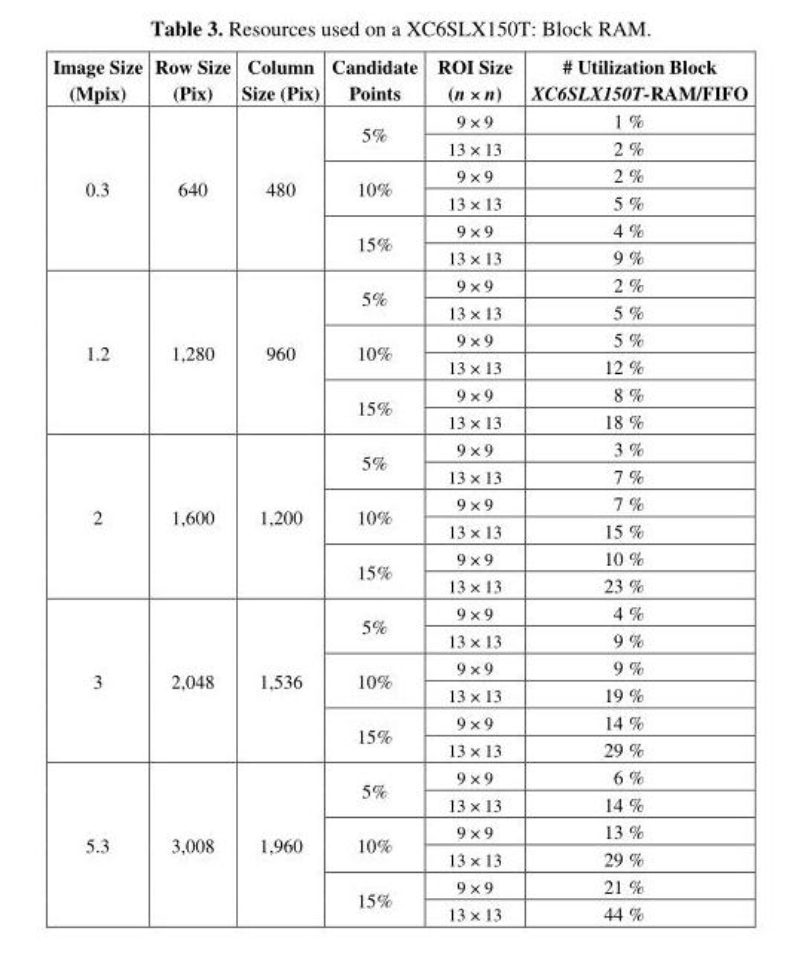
<table><thead><tr><td>Image Size (Mpix)</td><td>Row Size (Pix)</td><td>Column Size (Pix)</td><td>Candidate Points</td><td>ROI Size (n × n)</td><td># Utilization Block XC6SLX150T-RAM/FIFO</td></tr></thead><tbody><tr><td rowspan="6">0.3</td><td rowspan="6">640</td><td rowspan="6">480</td><td rowspan="2">5%</td><td>9 × 9</td><td>1 %</td></tr><tr><td>13 × 13</td><td>2 %</td></tr><tr><td rowspan="2">10%</td><td>9 × 9</td><td>2 %</td></tr><tr><td>13 × 13</td><td>5 %</td></tr><tr><td rowspan="2">15%</td><td>9 × 9</td><td>4 %</td></tr><tr><td>13 × 13</td><td>9 %</td></tr><tr><td rowspan="6">1.2</td><td rowspan="6">1,280</td><td rowspan="6">960</td><td rowspan="2">5%</td><td>9 × 9</td><td>2 %</td></tr><tr><td>13 × 13</td><td>5 %</td></tr><tr><td rowspan="2">10%</td><td>9 × 9</td><td>5 %</td></tr><tr><td>13 × 13</td><td>12 %</td></tr><tr><td rowspan="2">15%</td><td>9 × 9</td><td>8 %</td></tr><tr><td>13 × 13</td><td>18 %</td></tr><tr><td rowspan="6">2</td><td rowspan="6">1,600</td><td rowspan="6">1,200</td><td rowspan="2">5%</td><td>9 × 9</td><td>3 %</td></tr><tr><td>13 × 13</td><td>7 %</td></tr><tr><td rowspan="2">10%</td><td>9 × 9</td><td>7 %</td></tr><tr><td>13 × 13</td><td>15 %</td></tr><tr><td rowspan="2">15%</td><td>9 × 9</td><td>10 %</td></tr><tr><td>13 × 13</td><td>23 %</td></tr><tr><td rowspan="6">3</td><td rowspan="6">2,048</td><td rowspan="6">1,536</td><td rowspan="2">5%</td><td>9 × 9</td><td>4 %</td></tr><tr><td>13 × 13</td><td>9 %</td></tr><tr><td rowspan="2">10%</td><td>9 × 9</td><td>9 %</td></tr><tr><td>13 × 13</td><td>19 %</td></tr><tr><td rowspan="2">15%</td><td>9 × 9</td><td>14 %</td></tr><tr><td>13 × 13</td><td>29 %</td></tr><tr><td rowspan="6">5.3</td><td rowspan="6">3,008</td><td rowspan="6">1,960</td><td rowspan="2">5%</td><td>9 × 9</td><td>6 %</td></tr><tr><td>13 × 13</td><td>14 %</td></tr><tr><td rowspan="2">10%</td><td>9 × 9</td><td>13 %</td></tr><tr><td>13 × 13</td><td>29 %</td></tr><tr><td rowspan="2">15%</td><td>9 × 9</td><td>21 %</td></tr><tr><td>13 × 13</td><td>44 %</td></tr></tbody></table>